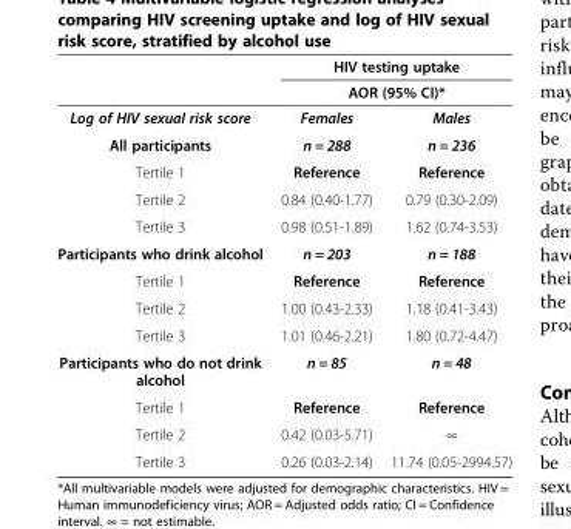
<table><thead><tr><td rowspan="3">Log of HIV sexual risk score</td><td rowspan="2" colspan="2">HIV testing uptake AOR (95% CI)*</td></tr><tr></tr><tr><td>Females</td><td>Males</td></tr></thead><tbody><tr><td>All participants</td><td>n = 288</td><td>n = 236</td></tr><tr><td>Tertile 1</td><td>Reference</td><td>Reference</td></tr><tr><td>Tertile 2</td><td>0.84 (0.40-1.77)</td><td>0.79 (0.30-2.09)</td></tr><tr><td>Tertile 3</td><td>0.98 (0.51-1.89)</td><td>1.62 (0.74-3.53)</td></tr><tr><td>Participants who drink alcohol</td><td>n = 203</td><td>n = 188</td></tr><tr><td>Tertile 1</td><td>Reference</td><td>Reference</td></tr><tr><td>Tertile 2</td><td>1.00 (0.43-2.33)</td><td>1.18 (0.41-3.43)</td></tr><tr><td>Tertile 3</td><td>1.01 (0.46-2.21)</td><td>1.80 (0.72-4.47)</td></tr><tr><td>Participants who do not drink alcohol</td><td>n = 85</td><td>n = 48</td></tr><tr><td>Tertile 1</td><td>Reference</td><td>Reference</td></tr><tr><td>Tertile 2</td><td>0.42 (0.03-5.71)</td><td>∞</td></tr><tr><td>Tertile 3</td><td>0.26 (0.03-2.14)</td><td>11.74 (0.05-2994.57)</td></tr></tbody></table>